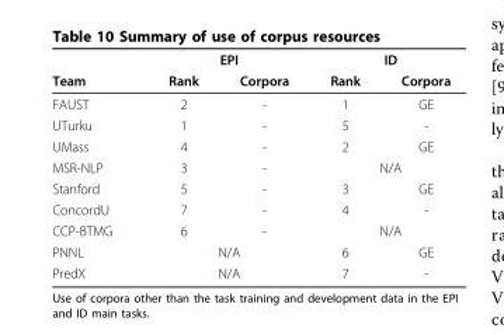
<table><thead><tr><td rowspan="2">Team</td><td colspan="2">EPI</td><td colspan="2">ID</td></tr><tr><td>Rank</td><td>Corpora</td><td>Rank</td><td>Corpora</td></tr></thead><tbody><tr><td>FAUST</td><td>2</td><td>-</td><td>1</td><td>GE</td></tr><tr><td>UTurku</td><td>1</td><td>-</td><td>5</td><td>-</td></tr><tr><td>UMass</td><td>4</td><td>-</td><td>2</td><td>GE</td></tr><tr><td>MSR-NLP</td><td>3</td><td>-</td><td colspan="2">N/A</td></tr><tr><td>Stanford</td><td>5</td><td>-</td><td>3</td><td>GE</td></tr><tr><td>ConcordU</td><td>7</td><td>-</td><td>4</td><td>-</td></tr><tr><td>CCP-BTMG</td><td>6</td><td>-</td><td colspan="2">N/A</td></tr><tr><td>PNNL</td><td colspan="2">N/A</td><td>6</td><td>GE</td></tr><tr><td>PredX</td><td colspan="2">N/A</td><td>7</td><td>-</td></tr></tbody></table>